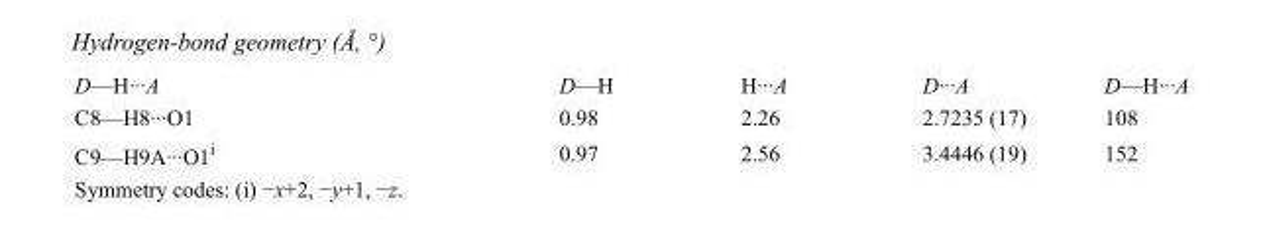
<table><tbody><tr><td>D—H···A</td><td>D—H</td><td>H···A</td><td>D···A</td><td>D—H···A</td></tr><tr><td>C8—H8···O1</td><td>0.98</td><td>2.26</td><td>2.7235 (17)</td><td>108</td></tr><tr><td>C9—H9A···O1<sup>i</sup></td><td>0.97</td><td>2.56</td><td>3.4446 (19)</td><td>152</td></tr></tbody></table>